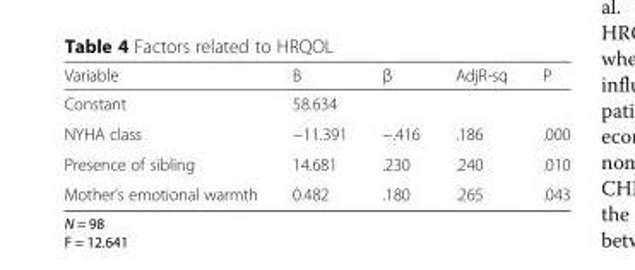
<table><thead><tr><td>Variable</td><td>B</td><td>β</td><td>AdjR-sq</td><td>P</td></tr></thead><tbody><tr><td>Constant</td><td>58.634</td><td></td><td></td><td></td></tr><tr><td>NYHA class</td><td>−11.391</td><td>−.416</td><td>.186</td><td>.000</td></tr><tr><td>Presence of sibling</td><td>14.681</td><td>.230</td><td>.240</td><td>.010</td></tr><tr><td>Mother’s emotional warmth</td><td>0.482</td><td>.180</td><td>.265</td><td>.043</td></tr></tbody></table>